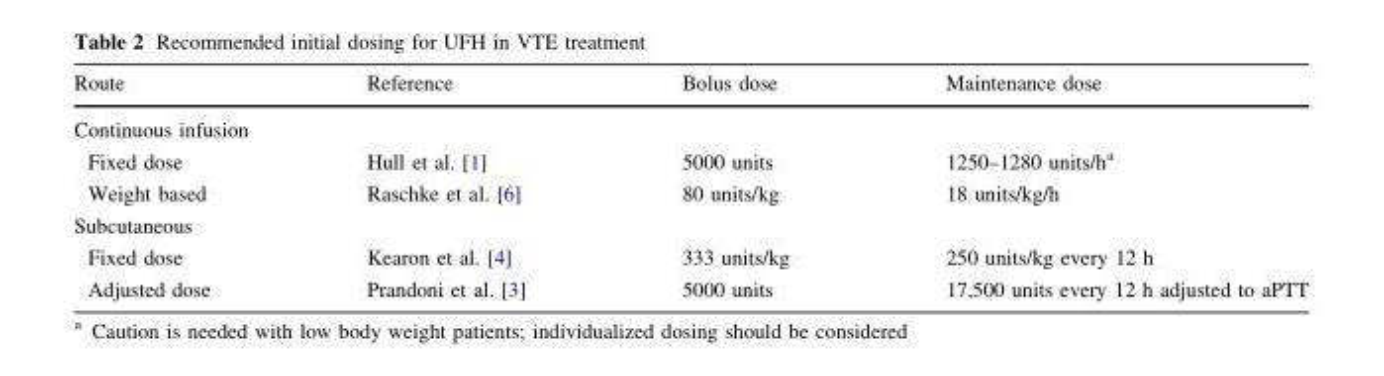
<table><thead><tr><td>Route</td><td>Reference</td><td>Bolus dose</td><td>Maintenance dose</td></tr></thead><tbody><tr><td colspan="4">Continuous infusion</td></tr><tr><td>Fixed dose</td><td>Hull et al. [1]</td><td>5000 units</td><td>1250–1280 units/h<sup>a</sup></td></tr><tr><td>Weight based</td><td>Raschke et al. [6]</td><td>80 units/kg</td><td>18 units/kg/h</td></tr><tr><td colspan="4">Subcutaneous</td></tr><tr><td>Fixed dose</td><td>Kearon et al. [4]</td><td>333 units/kg</td><td>250 units/kg every 12 h</td></tr><tr><td>Adjusted dose</td><td>Prandoni et al. [3]</td><td>5000 units</td><td>17,500 units every 12 h adjusted to aPTT</td></tr></tbody></table>